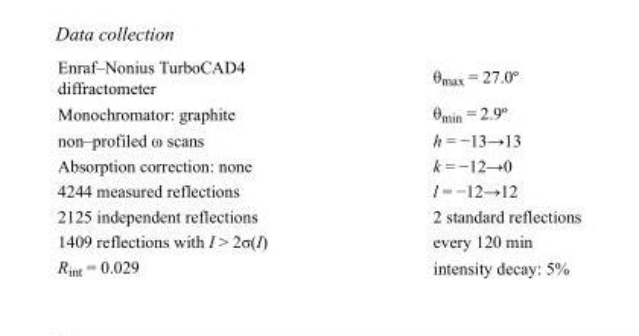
<table><tbody><tr><td>Enraf–Nonius TurboCAD4 diffractometer</td><td>θ<sub>max</sub> = 27.0º</td></tr><tr><td>Monochromator: graphite</td><td>θ<sub>min</sub> = 2.9º</td></tr><tr><td>non–profiled ω scans</td><td>h = −13→13</td></tr><tr><td>Absorption correction: none</td><td>k = −12→0</td></tr><tr><td>4244 measured reflections</td><td>l = −12→12</td></tr><tr><td>2125 independent reflections</td><td>2 standard reflections</td></tr><tr><td>1409 reflections with I &gt; 2σ(I)</td><td>every 120 min</td></tr><tr><td>R<sub>int</sub> = 0.029</td><td>intensity decay: 5%</td></tr></tbody></table>